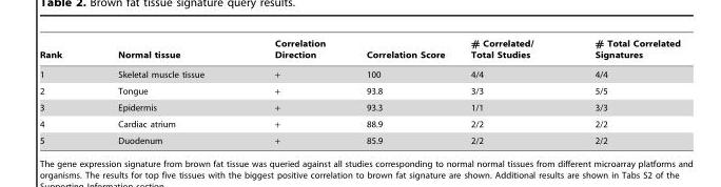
<table><thead><tr><td>Rank</td><td>Normal tissue</td><td>Correlation Direction</td><td>Correlation Score</td><td># Correlated/ Total Studies</td><td># Total Correlated Signatures</td></tr></thead><tbody><tr><td>1</td><td>Skeletal muscle tissue</td><td>+</td><td>100</td><td>4/4</td><td>4/4</td></tr><tr><td>2</td><td>Tongue</td><td>+</td><td>93.8</td><td>3/3</td><td>5/5</td></tr><tr><td>3</td><td>Epidermis</td><td>+</td><td>93.3</td><td>1/1</td><td>3/3</td></tr><tr><td>4</td><td>Cardiac atrium</td><td>+</td><td>88.9</td><td>2/2</td><td>2/2</td></tr><tr><td>5</td><td>Duodenum</td><td>+</td><td>85.9</td><td>2/2</td><td>2/2</td></tr></tbody></table>